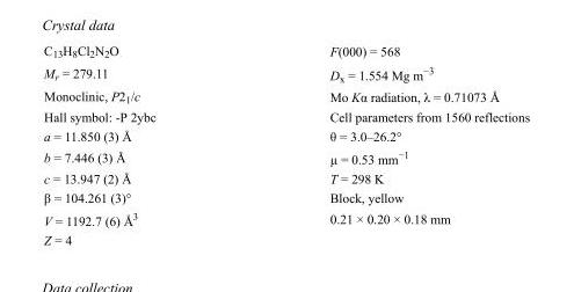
<table><tbody><tr><td>C<sub>13</sub>H<sub>8</sub>Cl<sub>2</sub>N<sub>2</sub>O</td><td>F(000) = 568</td></tr><tr><td>M<sub>r</sub> = 279.11</td><td>D<sub>x</sub> = 1.554 Mg m<sup>−3</sup></td></tr><tr><td>Monoclinic, P2<sub>1</sub>/c</td><td>Mo Kα radiation, λ = 0.71073 Å</td></tr><tr><td>Hall symbol: -P 2ybc</td><td>Cell parameters from 1560 reflections</td></tr><tr><td>a = 11.850 (3) Å</td><td>θ = 3.0–26.2°</td></tr><tr><td>b = 7.446 (3) Å</td><td>µ = 0.53 mm<sup>−1</sup></td></tr><tr><td>c = 13.947 (2) Å</td><td>T = 298 K</td></tr><tr><td>β = 104.261 (3)°</td><td>Block, yellow</td></tr><tr><td>V = 1192.7 (6) Å<sup>3</sup></td><td>0.21 × 0.20 × 0.18 mm</td></tr><tr><td>Z = 4</td><td></td></tr></tbody></table>